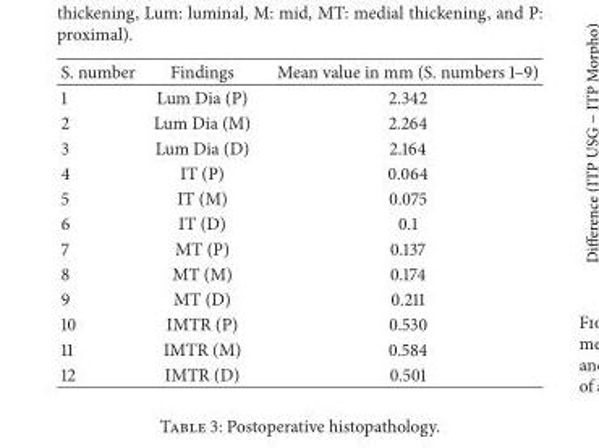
<table><thead><tr><td>S. number</td><td>Findings</td><td>Mean value in mm (S. numbers 1–9)</td></tr></thead><tbody><tr><td>1</td><td>Lum Dia (P)</td><td>2.342</td></tr><tr><td>2</td><td>Lum Dia (M)</td><td>2.264</td></tr><tr><td>3</td><td>Lum Dia (D)</td><td>2.164</td></tr><tr><td>4</td><td>IT (P)</td><td>0.064</td></tr><tr><td>5</td><td>IT (M)</td><td>0.075</td></tr><tr><td>6</td><td>IT (D)</td><td>0.1</td></tr><tr><td>7</td><td>MT (P)</td><td>0.137</td></tr><tr><td>8</td><td>MT (M)</td><td>0.174</td></tr><tr><td>9</td><td>MT (D)</td><td>0.211</td></tr><tr><td>10</td><td>IMTR (P)</td><td>0.530</td></tr><tr><td>11</td><td>IMTR (M)</td><td>0.584</td></tr><tr><td>12</td><td>IMTR (D)</td><td>0.501</td></tr></tbody></table>